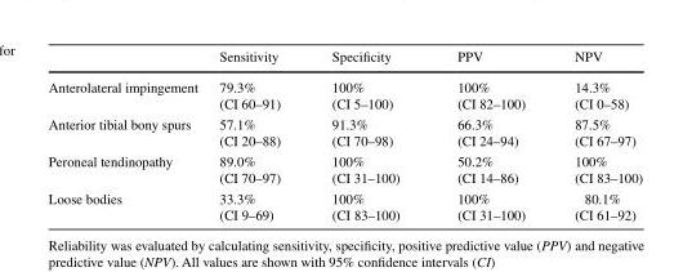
<table><thead><tr><td></td><td>Sensitivity</td><td>Specificity</td><td>PPV</td><td>NPV</td></tr></thead><tbody><tr><td>Anterolateral impingement</td><td>79.3% (CI 60–91)</td><td>100% (CI 5–100)</td><td>100% (CI 82–100)</td><td>14.3% (CI 0–58)</td></tr><tr><td>Anterior tibial bony spurs</td><td>57.1% (CI 20–88)</td><td>91.3% (CI 70–98)</td><td>66.3% (CI 24–94)</td><td>87.5% (CI 67–97)</td></tr><tr><td>Peroneal tendinopathy</td><td>89.0% (CI 70–97)</td><td>100% (CI 31–100)</td><td>50.2% (CI 14–86)</td><td>100% (CI 83–100)</td></tr><tr><td>Loose bodies</td><td>33.3% (CI 9–69)</td><td>100% (CI 83–100)</td><td>100% (CI 31–100)</td><td>80.1% (CI 61–92)</td></tr></tbody></table>